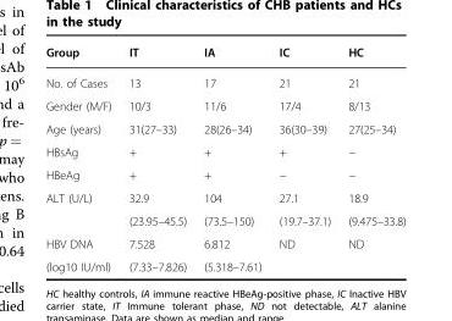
<table><thead><tr><td>Group</td><td>IT</td><td>IA</td><td>IC</td><td>HC</td></tr></thead><tbody><tr><td>No. of Cases</td><td>13</td><td>17</td><td>21</td><td>21</td></tr><tr><td>Gender (M/F)</td><td>10/3</td><td>11/6</td><td>17/4</td><td>8/13</td></tr><tr><td>Age (years)</td><td>31(27–33)</td><td>28(26–34)</td><td>36(30–39)</td><td>27(25–34)</td></tr><tr><td>HBsAg</td><td>+</td><td>+</td><td>+</td><td>−</td></tr><tr><td>HBeAg</td><td>+</td><td>+</td><td>−</td><td>−</td></tr><tr><td rowspan="2">ALT (U/L)</td><td>32.9</td><td>104</td><td>27.1</td><td>18.9</td></tr><tr><td>(23.95–45.5)</td><td>(73.5–150)</td><td>(19.7–37.1)</td><td>(9.475–33.8)</td></tr><tr><td>HBV DNA</td><td>7.528</td><td>6.812</td><td rowspan="2">ND</td><td rowspan="2">ND</td></tr><tr><td>(log10 IU/ml)</td><td>(7.33–7.826)</td><td>(5.318–7.61)</td></tr></tbody></table>